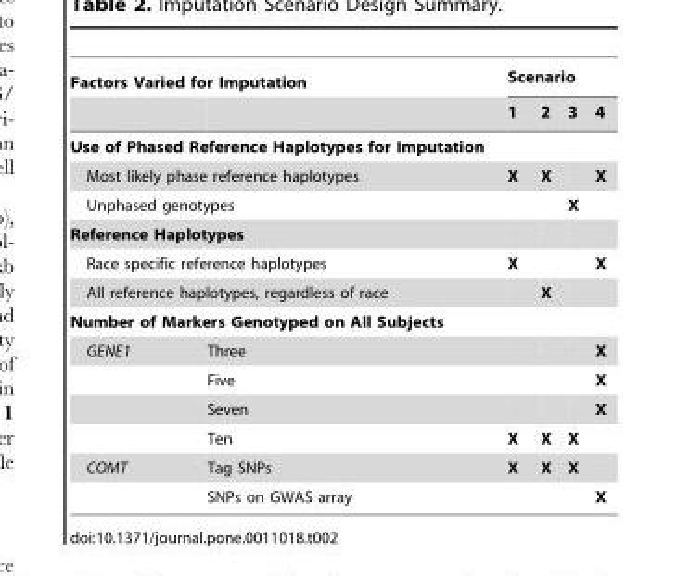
<table><thead><tr><td colspan="2">Factors Varied for Imputation</td><td colspan="4">Scenario</td></tr><tr><td></td><td></td><td>1</td><td>2</td><td>3</td><td>4</td></tr></thead><tbody><tr><td colspan="6">Use of Phased Reference Haplotypes for Imputation</td></tr><tr><td colspan="2">Most likely phase reference haplotypes</td><td>X</td><td>X</td><td></td><td>X</td></tr><tr><td colspan="2">Unphased genotypes</td><td></td><td></td><td>X</td><td></td></tr><tr><td colspan="6">Reference Haplotypes</td></tr><tr><td colspan="2">Race specific reference haplotypes</td><td>X</td><td></td><td></td><td>X</td></tr><tr><td colspan="2">All reference haplotypes, regardless of race</td><td></td><td>X</td><td></td><td></td></tr><tr><td colspan="6">Number of Markers Genotyped on All Subjects</td></tr><tr><td rowspan="4">GENE1</td><td>Three</td><td></td><td></td><td></td><td>X</td></tr><tr><td>Five</td><td></td><td></td><td></td><td>X</td></tr><tr><td>Seven</td><td></td><td></td><td></td><td>X</td></tr><tr><td>Ten</td><td>X</td><td>X</td><td>X</td><td></td></tr><tr><td rowspan="2">COMT</td><td>Tag SNPs</td><td>X</td><td>X</td><td>X</td><td></td></tr><tr><td>SNPs on GWAS array</td><td></td><td></td><td></td><td>X</td></tr></tbody></table>